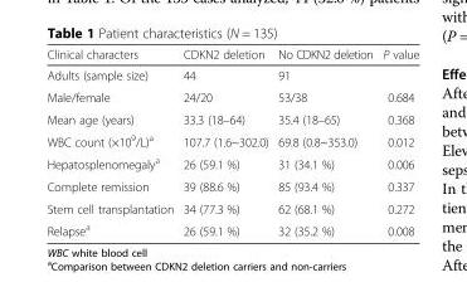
<table><thead><tr><td>Clinical characters</td><td>CDKN2 deletion</td><td>No CDKN2 deletion</td><td>P value</td></tr></thead><tbody><tr><td>Adults (sample size)</td><td>44</td><td>91</td><td></td></tr><tr><td>Male/female</td><td>24/20</td><td>53/38</td><td>0.684</td></tr><tr><td>Mean age (years)</td><td>33.3 (18–64)</td><td>35.4 (18–65)</td><td>0.368</td></tr><tr><td>WBC count (×10<sup>9</sup>/L)<sup>a</sup></td><td>107.7 (1.6~302.0)</td><td>69.8 (0.8~353.0)</td><td>0.012</td></tr><tr><td>Hepatosplenomegaly<sup>a</sup></td><td>26 (59.1 %)</td><td>31 (34.1 %)</td><td>0.006</td></tr><tr><td>Complete remission</td><td>39 (88.6 %)</td><td>85 (93.4 %)</td><td>0.337</td></tr><tr><td>Stem cell transplantation</td><td>34 (77.3 %)</td><td>62 (68.1 %)</td><td>0.272</td></tr><tr><td>Relapse<sup>a</sup></td><td>26 (59.1 %)</td><td>32 (35.2 %)</td><td>0.008</td></tr></tbody></table>